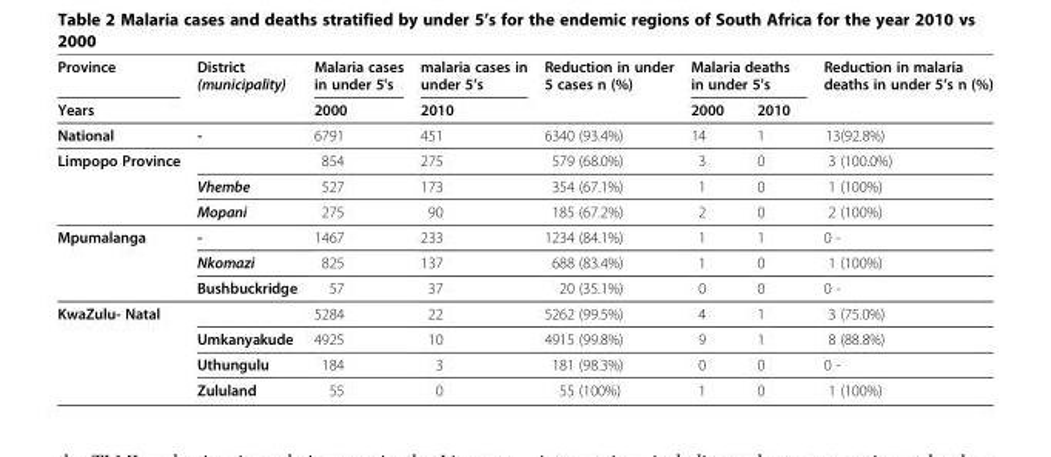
<table><thead><tr><td rowspan="2">Province Years</td><td rowspan="2">District (municipality)</td><td rowspan="2">Malaria cases in under 5&#x27;s 2000</td><td rowspan="2">malaria cases in under 5’s 2010</td><td rowspan="2">Reduction in under 5 cases n (%)</td><td colspan="2">Malaria deaths in under 5&#x27;s</td><td rowspan="2">Reduction in malaria deaths in under 5’s n (%)</td></tr><tr><td>2000</td><td>2010</td></tr></thead><tbody><tr><td>National</td><td>-</td><td>6791</td><td>451</td><td>6340 (93.4%)</td><td>14</td><td>1</td><td>13(92.8%)</td></tr><tr><td rowspan="3">Limpopo Province</td><td></td><td>854</td><td>275</td><td>579 (68.0%)</td><td>3</td><td>0</td><td>3 (100.0%)</td></tr><tr><td>Vhembe</td><td>527</td><td>173</td><td>354 (67.1%)</td><td>1</td><td>0</td><td>1 (100%)</td></tr><tr><td>Mopani</td><td>275</td><td>90</td><td>185 (67.2%)</td><td>2</td><td>0</td><td>2 (100%)</td></tr><tr><td rowspan="3">Mpumalanga</td><td>-</td><td>1467</td><td>233</td><td>1234 (84.1%)</td><td>1</td><td>1</td><td>0 -</td></tr><tr><td>Nkomazi</td><td>825</td><td>137</td><td>688 (83.4%)</td><td>1</td><td>0</td><td>1 (100%)</td></tr><tr><td>Bushbuckridge</td><td>57</td><td>37</td><td>20 (35.1%)</td><td>0</td><td>0</td><td>0 -</td></tr><tr><td rowspan="4">KwaZulu- Natal</td><td></td><td>5284</td><td>22</td><td>5262 (99.5%)</td><td>4</td><td>1</td><td>3 (75.0%)</td></tr><tr><td>Umkanyakude</td><td>4925</td><td>10</td><td>4915 (99.8%)</td><td>9</td><td>1</td><td>8 (88.8%)</td></tr><tr><td>Uthungulu</td><td>184</td><td>3</td><td>181 (98.3%)</td><td>0</td><td>0</td><td>0 -</td></tr><tr><td>Zululand</td><td>55</td><td>0</td><td>55 (100%)</td><td>1</td><td>0</td><td>1 (100%)</td></tr></tbody></table>